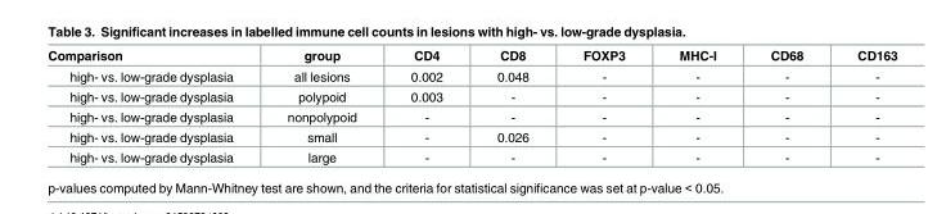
<table><thead><tr><td>Comparison</td><td>group</td><td>CD4</td><td>CD8</td><td>FOXP3</td><td>MHC-I</td><td>CD68</td><td>CD163</td></tr></thead><tbody><tr><td>high- vs. low-grade dysplasia</td><td>all lesions</td><td>0.002</td><td>0.048</td><td>-</td><td>-</td><td>-</td><td>-</td></tr><tr><td>high- vs. low-grade dysplasia</td><td>polypoid</td><td>0.003</td><td>-</td><td>-</td><td>-</td><td>-</td><td>-</td></tr><tr><td>high- vs. low-grade dysplasia</td><td>nonpolypoid</td><td>-</td><td>-</td><td>-</td><td>-</td><td>-</td><td>-</td></tr><tr><td>high- vs. low-grade dysplasia</td><td>small</td><td>-</td><td>0.026</td><td>-</td><td>-</td><td>-</td><td>-</td></tr><tr><td>high- vs. low-grade dysplasia</td><td>large</td><td>-</td><td>-</td><td>-</td><td>-</td><td>-</td><td>-</td></tr></tbody></table>